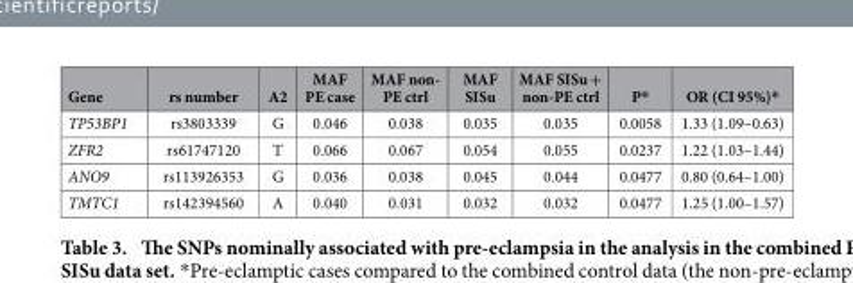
<table><thead><tr><td>Gene</td><td>rs number</td><td>A2</td><td>MAF PE case</td><td>MAF non- PE ctrl</td><td>MAF SISu</td><td>MAF SISu + non-PE ctrl</td><td>P*</td><td>OR (CI 95%)*</td></tr></thead><tbody><tr><td>TP53BP1</td><td>rs3803339</td><td>G</td><td>0.046</td><td>0.038</td><td>0.035</td><td>0.035</td><td>0.0058</td><td>1.33 (1.09–0.63)</td></tr><tr><td>ZFR2</td><td>rs61747120</td><td>T</td><td>0.066</td><td>0.067</td><td>0.054</td><td>0.055</td><td>0.0237</td><td>1.22 (1.03–1.44)</td></tr><tr><td>ANO9</td><td>rs113926353</td><td>G</td><td>0.036</td><td>0.038</td><td>0.045</td><td>0.044</td><td>0.0477</td><td>0.80 (0.64–1.00)</td></tr><tr><td>TMTC1</td><td>rs142394560</td><td>A</td><td>0.040</td><td>0.031</td><td>0.032</td><td>0.032</td><td>0.0477</td><td>1.25 (1.00–1.57)</td></tr></tbody></table>